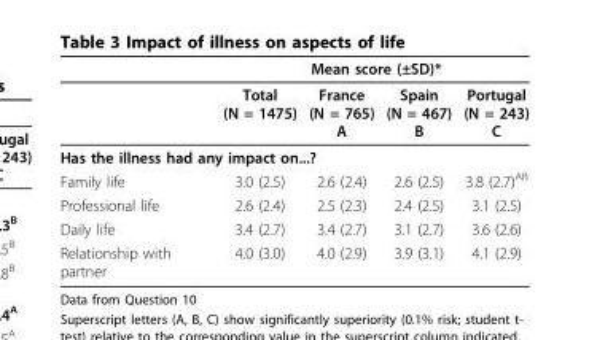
<table><thead><tr><td rowspan="2"></td><td colspan="4">Mean score (±SD)*</td></tr><tr><td>Total (N = 1475)</td><td>France (N = 765) A</td><td>Spain (N = 467) B</td><td>Portugal (N = 243) C</td></tr></thead><tbody><tr><td colspan="5">Has the illness had any impact on...?</td></tr><tr><td>Family life</td><td>3.0 (2.5)</td><td>2.6 (2.4)</td><td>2.6 (2.5)</td><td>3.8 (2.7)<sup>AB</sup></td></tr><tr><td>Professional life</td><td>2.6 (2.4)</td><td>2.5 (2.3)</td><td>2.4 (2.5)</td><td>3.1 (2.5)</td></tr><tr><td>Daily life</td><td>3.4 (2.7)</td><td>3.4 (2.7)</td><td>3.1 (2.7)</td><td>3.6 (2.6)</td></tr><tr><td>Relationship with partner</td><td>4.0 (3.0)</td><td>4.0 (2.9)</td><td>3.9 (3.1)</td><td>4.1 (2.9)</td></tr></tbody></table>